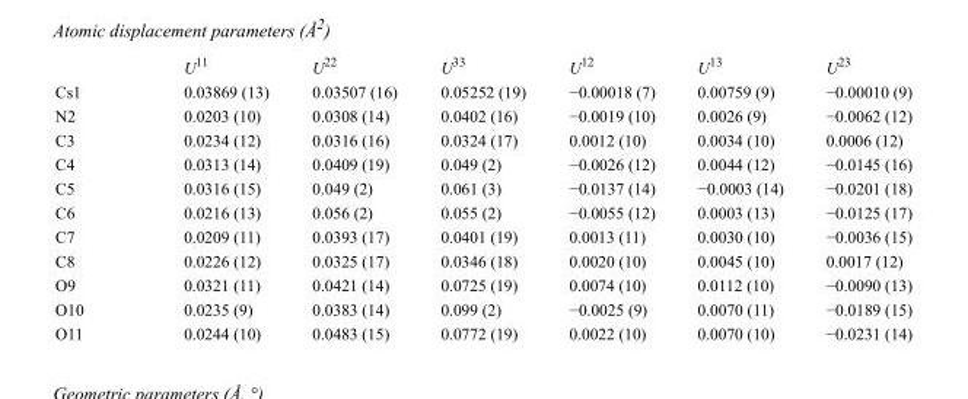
<table><thead><tr><td></td><td>U<sup>11</sup></td><td>U<sup>22</sup></td><td>U<sup>33</sup></td><td>U<sup>12</sup></td><td>U<sup>13</sup></td><td>U<sup>23</sup></td></tr></thead><tbody><tr><td>Cs1</td><td>0.03869 (13)</td><td>0.03507 (16)</td><td>0.05252 (19)</td><td>−0.00018 (7)</td><td>0.00759 (9)</td><td>−0.00010 (9)</td></tr><tr><td>N2</td><td>0.0203 (10)</td><td>0.0308 (14)</td><td>0.0402 (16)</td><td>−0.0019 (10)</td><td>0.0026 (9)</td><td>−0.0062 (12)</td></tr><tr><td>C3</td><td>0.0234 (12)</td><td>0.0316 (16)</td><td>0.0324 (17)</td><td>0.0012 (10)</td><td>0.0034 (10)</td><td>0.0006 (12)</td></tr><tr><td>C4</td><td>0.0313 (14)</td><td>0.0409 (19)</td><td>0.049 (2)</td><td>−0.0026 (12)</td><td>0.0044 (12)</td><td>−0.0145 (16)</td></tr><tr><td>C5</td><td>0.0316 (15)</td><td>0.049 (2)</td><td>0.061 (3)</td><td>−0.0137 (14)</td><td>−0.0003 (14)</td><td>−0.0201 (18)</td></tr><tr><td>C6</td><td>0.0216 (13)</td><td>0.056 (2)</td><td>0.055 (2)</td><td>−0.0055 (12)</td><td>0.0003 (13)</td><td>−0.0125 (17)</td></tr><tr><td>C7</td><td>0.0209 (11)</td><td>0.0393 (17)</td><td>0.0401 (19)</td><td>0.0013 (11)</td><td>0.0030 (10)</td><td>−0.0036 (15)</td></tr><tr><td>C8</td><td>0.0226 (12)</td><td>0.0325 (17)</td><td>0.0346 (18)</td><td>0.0020 (10)</td><td>0.0045 (10)</td><td>0.0017 (12)</td></tr><tr><td>O9</td><td>0.0321 (11)</td><td>0.0421 (14)</td><td>0.0725 (19)</td><td>0.0074 (10)</td><td>0.0112 (10)</td><td>−0.0090 (13)</td></tr><tr><td>O10</td><td>0.0235 (9)</td><td>0.0383 (14)</td><td>0.099 (2)</td><td>−0.0025 (9)</td><td>0.0070 (11)</td><td>−0.0189 (15)</td></tr><tr><td>O11</td><td>0.0244 (10)</td><td>0.0483 (15)</td><td>0.0772 (19)</td><td>0.0022 (10)</td><td>0.0070 (10)</td><td>−0.0231 (14)</td></tr></tbody></table>